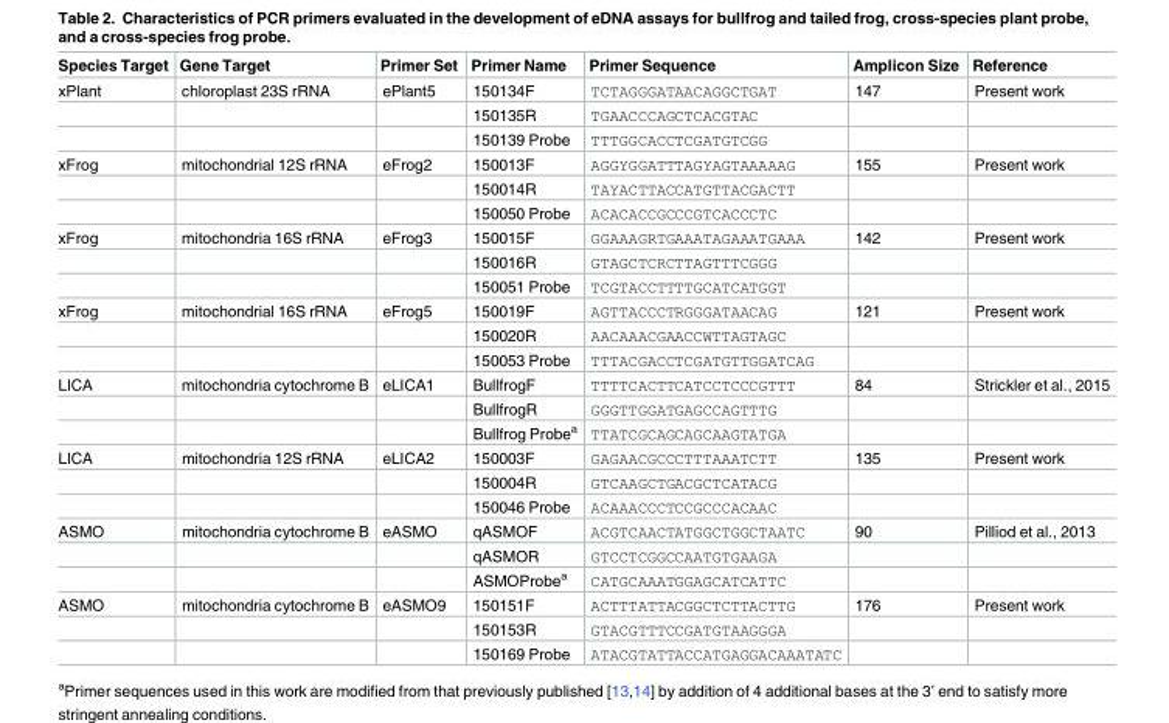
<table><thead><tr><td>Species Target</td><td>Gene Target</td><td>Primer Set</td><td>Primer Name</td><td>Primer Sequence</td><td>Amplicon Size</td><td>Reference</td></tr></thead><tbody><tr><td rowspan="3">xPlant</td><td>chloroplast 23S rRNA</td><td>ePlant5</td><td>150134F</td><td>TCTAGGGATAACAGGCTGAT</td><td>147</td><td>Present work</td></tr><tr><td></td><td></td><td>150135R</td><td>TGAACCCAGCTCACGTAC</td><td></td><td></td></tr><tr><td></td><td></td><td>150139 Probe</td><td>TTTGGCACCTCGATGTCGG</td><td></td><td></td></tr><tr><td rowspan="3">xFrog</td><td>mitochondrial 12S rRNA</td><td>eFrog2</td><td>150013F</td><td>AGGYGGATTTAGYAGTAAAAAG</td><td>155</td><td>Present work</td></tr><tr><td></td><td></td><td>150014R</td><td>TAYACTTACCATGTTACGACTT</td><td></td><td></td></tr><tr><td></td><td></td><td>150050 Probe</td><td>ACACACCGCCCGTCACCCTC</td><td></td><td></td></tr><tr><td rowspan="3">xFrog</td><td>mitochondria 16S rRNA</td><td>eFrog3</td><td>150015F</td><td>GGAAAGRTGAAATAGAAATGAAA</td><td>142</td><td>Present work</td></tr><tr><td></td><td></td><td>150016R</td><td>GTAGCTCRCTTAGTTTCGGG</td><td></td><td></td></tr><tr><td></td><td></td><td>150051 Probe</td><td>TCGTACCTTTTGCATCATGGT</td><td></td><td></td></tr><tr><td rowspan="3">xFrog</td><td>mitochondrial 16S rRNA</td><td>eFrog5</td><td>150019F</td><td>AGTTACCCTRGGGATAACAG</td><td>121</td><td>Present work</td></tr><tr><td></td><td></td><td>150020R</td><td>AACAAACGAACCWTTAGTAGC</td><td></td><td></td></tr><tr><td></td><td></td><td>150053 Probe</td><td>TTTACGACCTCGATGTTGGATCAG</td><td></td><td></td></tr><tr><td rowspan="3">LICA</td><td>mitochondria cytochrome B</td><td>eLICA1</td><td>BullfrogF</td><td>TTTTCACTTCATCCTCCCGTTT</td><td>84</td><td>Strickler et al., 2015</td></tr><tr><td></td><td></td><td>BullfrogR</td><td>GGGTTGGATGAGCCAGTTTG</td><td></td><td></td></tr><tr><td></td><td></td><td>Bullfrog Probe<sup>a</sup></td><td>TTATCGCAGCAGCAAGTATGA</td><td></td><td></td></tr><tr><td rowspan="3">LICA</td><td>mitochondria 12S rRNA</td><td>eLICA2</td><td>150003F</td><td>GAGAACGCCCTTTAAATCTT</td><td>135</td><td>Present work</td></tr><tr><td></td><td></td><td>150004R</td><td>GTCAAGCTGACGCTCATACG</td><td></td><td></td></tr><tr><td></td><td></td><td>150046 Probe</td><td>ACAAACCCTCCGCCCACAAC</td><td></td><td></td></tr><tr><td rowspan="3">ASMO</td><td>mitochondria cytochrome B</td><td>eASMO</td><td>qASMOF</td><td>ACGTCAACTATGGCTGGCTAATC</td><td>90</td><td>Pilliod et al., 2013</td></tr><tr><td></td><td></td><td>qASMOR</td><td>GTCCTCGGCCAATGTGAAGA</td><td></td><td></td></tr><tr><td></td><td></td><td>ASMOProbe<sup>a</sup></td><td>CATGCAAATGGAGCATCATTC</td><td></td><td></td></tr><tr><td rowspan="3">ASMO</td><td>mitochondria cytochrome B</td><td>eASMO9</td><td>150151F</td><td>ACTTTATTACGGCTCTTACTTG</td><td>176</td><td>Present work</td></tr><tr><td></td><td></td><td>150153R</td><td>GTACGTTTCCGATGTAAGGGA</td><td></td><td></td></tr><tr><td></td><td></td><td>150169 Probe</td><td>ATACGTATTACCATGAGGACAAATATC</td><td></td><td></td></tr></tbody></table>